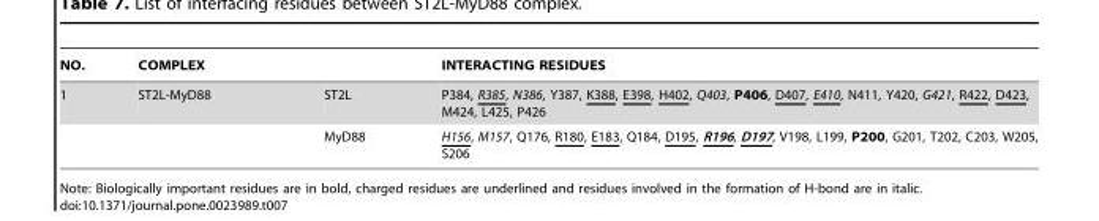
<table><thead><tr><td rowspan="2">NO. 1</td><td colspan="2">COMPLEX</td><td rowspan="2">INTERACTING RESIDUES P384, R385, N386, Y387, K388, E398, H402, Q403, P406, D407, E410, N411, Y420, G421, R422, D423, M424, L425, P426</td></tr><tr><td>ST2L-MyD88</td><td>ST2L</td></tr></thead><tbody><tr><td></td><td></td><td>MyD88</td><td>H156, M157, Q176, R180, E183, Q184, D195, R196, D197, V198, L199, P200, G201, T202, C203, W205, S206</td></tr></tbody></table>